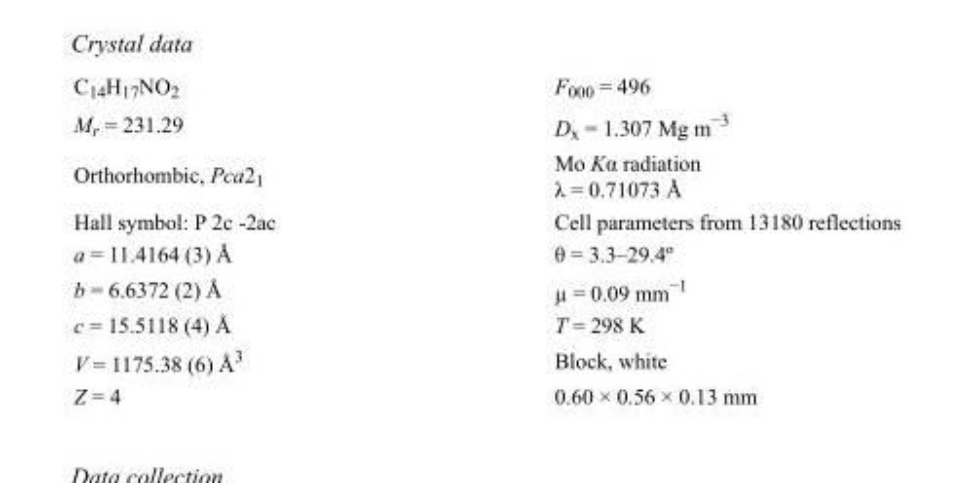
<table><tbody><tr><td>C<sub>14</sub>H<sub>17</sub>NO<sub>2</sub></td><td>F000 = 496</td></tr><tr><td>M<sub>r</sub> = 231.29</td><td>D<sub>x</sub> = 1.307 Mg m<sup>−3</sup></td></tr><tr><td>Orthorhombic, Pca2<sub>1</sub></td><td>Mo Kα radiation λ = 0.71073 Å</td></tr><tr><td>Hall symbol: P 2c -2ac</td><td>Cell parameters from 13180 reflections</td></tr><tr><td>a = 11.4164 (3) Å</td><td>θ = 3.3–29.4º</td></tr><tr><td>b = 6.6372 (2) Å</td><td>µ = 0.09 mm<sup>−1</sup></td></tr><tr><td>c = 15.5118 (4) Å</td><td>T = 298 K</td></tr><tr><td>V = 1175.38 (6) Å<sup>3</sup></td><td>Block, white</td></tr><tr><td>Z = 4</td><td>0.60 × 0.56 × 0.13 mm</td></tr></tbody></table>